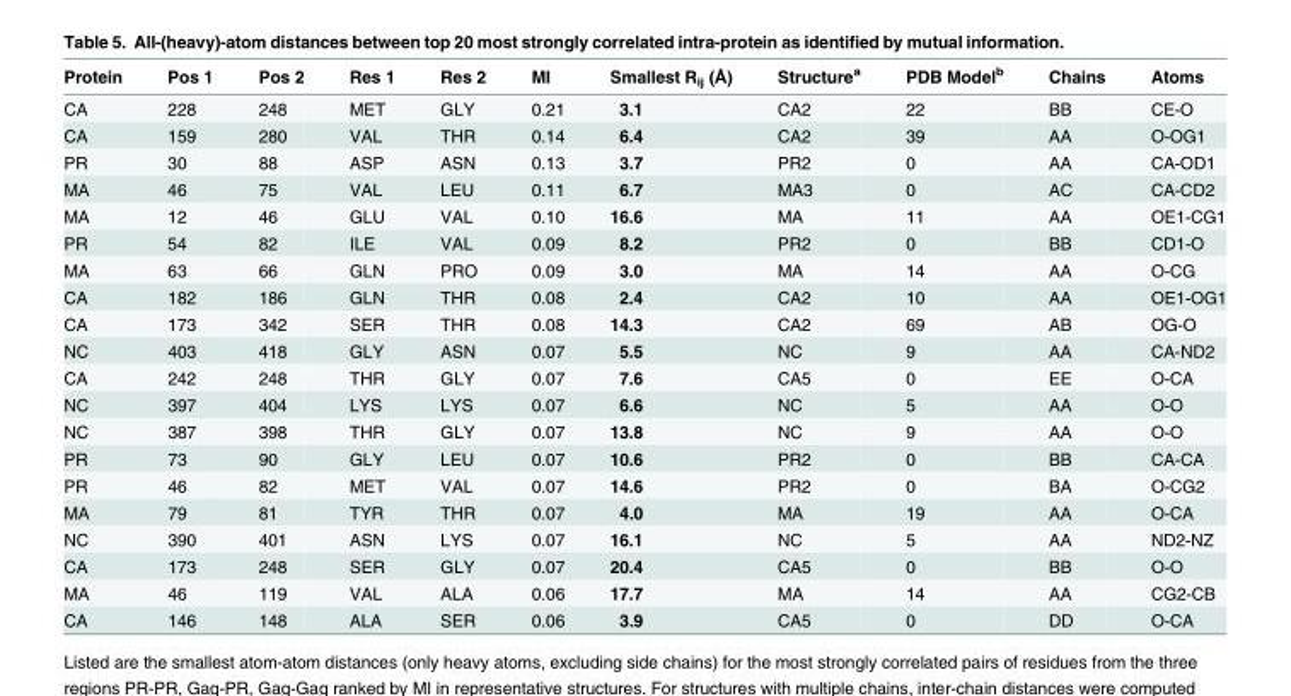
<table><thead><tr><td>Protein</td><td>Pos 1</td><td>Pos 2</td><td>Res 1</td><td>Res 2</td><td>MI</td><td>Smallest R<sub>ij</sub> (Å)</td><td>Structure<sup>a</sup></td><td>PDB Model<sup>b</sup></td><td>Chains</td><td>Atoms</td></tr></thead><tbody><tr><td>CA</td><td>228</td><td>248</td><td>MET</td><td>GLY</td><td>0.21</td><td>3.1</td><td>CA2</td><td>22</td><td>BB</td><td>CE-O</td></tr><tr><td>CA</td><td>159</td><td>280</td><td>VAL</td><td>THR</td><td>0.14</td><td>6.4</td><td>CA2</td><td>39</td><td>AA</td><td>O-OG1</td></tr><tr><td>PR</td><td>30</td><td>88</td><td>ASP</td><td>ASN</td><td>0.13</td><td>3.7</td><td>PR2</td><td>0</td><td>AA</td><td>CA-OD1</td></tr><tr><td>MA</td><td>46</td><td>75</td><td>VAL</td><td>LEU</td><td>0.11</td><td>6.7</td><td>MA3</td><td>0</td><td>AC</td><td>CA-CD2</td></tr><tr><td>MA</td><td>12</td><td>46</td><td>GLU</td><td>VAL</td><td>0.10</td><td>16.6</td><td>MA</td><td>11</td><td>AA</td><td>OE1-CG1</td></tr><tr><td>PR</td><td>54</td><td>82</td><td>ILE</td><td>VAL</td><td>0.09</td><td>8.2</td><td>PR2</td><td>0</td><td>BB</td><td>CD1-O</td></tr><tr><td>MA</td><td>63</td><td>66</td><td>GLN</td><td>PRO</td><td>0.09</td><td>3.0</td><td>MA</td><td>14</td><td>AA</td><td>O-CG</td></tr><tr><td>CA</td><td>182</td><td>186</td><td>GLN</td><td>THR</td><td>0.08</td><td>2.4</td><td>CA2</td><td>10</td><td>AA</td><td>OE1-OG1</td></tr><tr><td>CA</td><td>173</td><td>342</td><td>SER</td><td>THR</td><td>0.08</td><td>14.3</td><td>CA2</td><td>69</td><td>AB</td><td>OG-O</td></tr><tr><td>NC</td><td>403</td><td>418</td><td>GLY</td><td>ASN</td><td>0.07</td><td>5.5</td><td>NC</td><td>9</td><td>AA</td><td>CA-ND2</td></tr><tr><td>CA</td><td>242</td><td>248</td><td>THR</td><td>GLY</td><td>0.07</td><td>7.6</td><td>CA5</td><td>0</td><td>EE</td><td>O-CA</td></tr><tr><td>NC</td><td>397</td><td>404</td><td>LYS</td><td>LYS</td><td>0.07</td><td>6.6</td><td>NC</td><td>5</td><td>AA</td><td>O-O</td></tr><tr><td>NC</td><td>387</td><td>398</td><td>THR</td><td>GLY</td><td>0.07</td><td>13.8</td><td>NC</td><td>9</td><td>AA</td><td>O-O</td></tr><tr><td>PR</td><td>73</td><td>90</td><td>GLY</td><td>LEU</td><td>0.07</td><td>10.6</td><td>PR2</td><td>0</td><td>BB</td><td>CA-CA</td></tr><tr><td>PR</td><td>46</td><td>82</td><td>MET</td><td>VAL</td><td>0.07</td><td>14.6</td><td>PR2</td><td>0</td><td>BA</td><td>O-CG2</td></tr><tr><td>MA</td><td>79</td><td>81</td><td>TYR</td><td>THR</td><td>0.07</td><td>4.0</td><td>MA</td><td>19</td><td>AA</td><td>O-CA</td></tr><tr><td>NC</td><td>390</td><td>401</td><td>ASN</td><td>LYS</td><td>0.07</td><td>16.1</td><td>NC</td><td>5</td><td>AA</td><td>ND2-NZ</td></tr><tr><td>CA</td><td>173</td><td>248</td><td>SER</td><td>GLY</td><td>0.07</td><td>20.4</td><td>CA5</td><td>0</td><td>BB</td><td>O-O</td></tr><tr><td>MA</td><td>46</td><td>119</td><td>VAL</td><td>ALA</td><td>0.06</td><td>17.7</td><td>MA</td><td>14</td><td>AA</td><td>CG2-CB</td></tr><tr><td>CA</td><td>146</td><td>148</td><td>ALA</td><td>SER</td><td>0.06</td><td>3.9</td><td>CA5</td><td>0</td><td>DD</td><td>O-CA</td></tr></tbody></table>